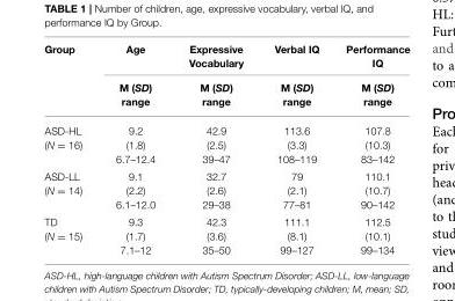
<table><thead><tr><td rowspan="2">Group</td><td rowspan="2">Age M (SD) range</td><td rowspan="2">Expressive Vocabulary M (SD) range</td><td rowspan="2">Verbal IQ M (SD) range</td><td rowspan="2">Performance IQ M (SD) range</td></tr><tr></tr></thead><tbody><tr><td>ASD-HL (N = 16)</td><td>9.2 (1.8) 6.7–12.4</td><td>42.9 (2.5) 39–47</td><td>113.6 (3.3) 108–119</td><td>107.8 (10.3) 83–142</td></tr><tr><td>ASD-LL (N = 14)</td><td>9.1 (2.2) 6.1–12.0</td><td>32.7 (2.6) 29–38</td><td>79 (2.1) 77–81</td><td>110.1 (10.7) 90–142</td></tr><tr><td>TD (N = 15)</td><td>9.3 (1.7) 7.1–12</td><td>42.3 (3.6) 35–50</td><td>111.1 (8.1) 99–127</td><td>112.5 (10.1) 99–134</td></tr></tbody></table>